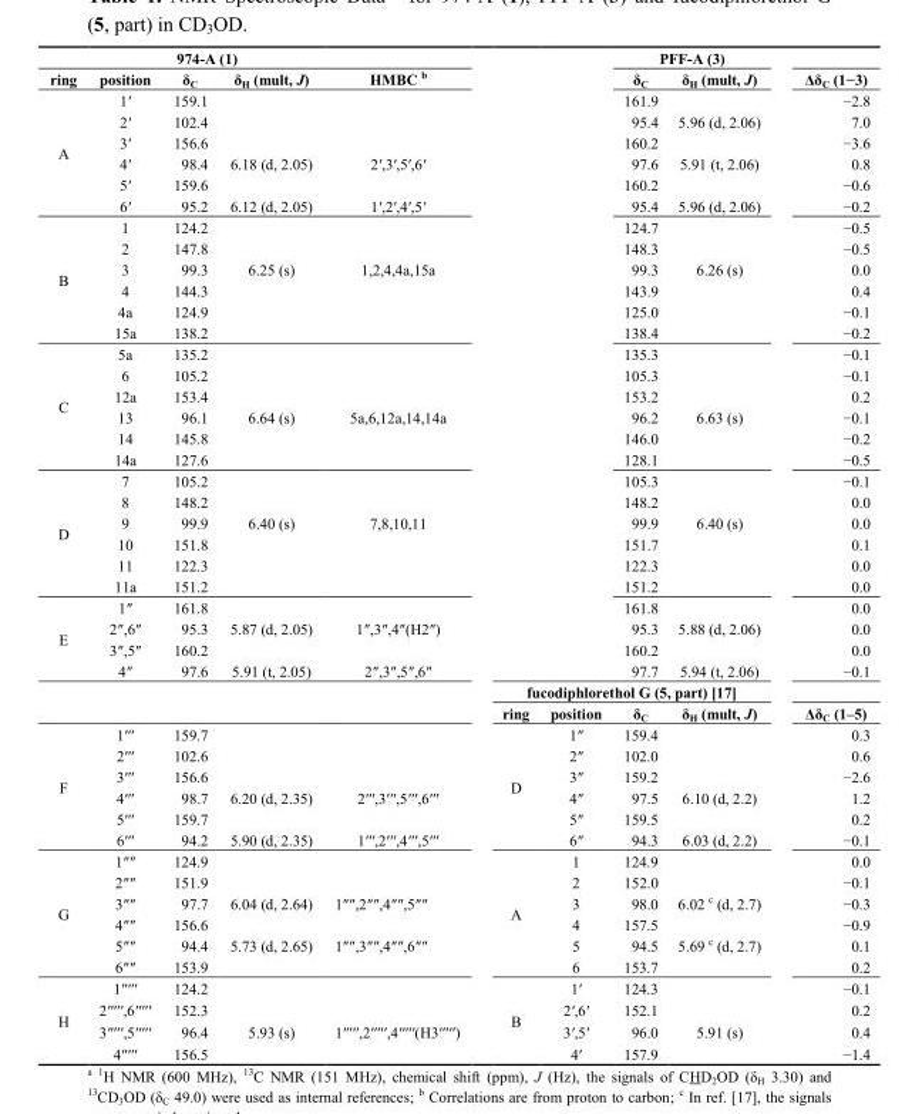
<table><thead><tr><td rowspan="2">ring</td><td colspan="3">974-A (1)</td><td rowspan="2">HMBC <sup>b</sup></td><td rowspan="2"></td><td rowspan="2"></td><td colspan="2">PFF-A (3)</td><td rowspan="2">Δδ<sub>C</sub> (1−3)</td></tr><tr><td>position</td><td>δ<sub>C</sub></td><td>δH (mult, J)</td><td>δC</td><td>δH (mult, J)</td></tr></thead><tbody><tr><td rowspan="6">A</td><td>1′</td><td>159.1</td><td></td><td></td><td></td><td></td><td>161.9</td><td></td><td>−2.8</td></tr><tr><td>2′</td><td>102.4</td><td></td><td></td><td></td><td></td><td>95.4</td><td>5.96 (d, 2.06)</td><td>7.0</td></tr><tr><td>3′</td><td>156.6</td><td></td><td></td><td></td><td></td><td>160.2</td><td></td><td>−3.6</td></tr><tr><td>4′</td><td>98.4</td><td>6.18 (d, 2.05)</td><td>2′,3′,5′,6′</td><td></td><td></td><td>97.6</td><td>5.91 (t, 2.06)</td><td>0.8</td></tr><tr><td>5′</td><td>159.6</td><td></td><td></td><td></td><td></td><td>160.2</td><td></td><td>−0.6</td></tr><tr><td>6′</td><td>95.2</td><td>6.12 (d, 2.05)</td><td>1′,2′,4′,5′</td><td></td><td></td><td>95.4</td><td>5.96 (d, 2.06)</td><td>−0.2</td></tr><tr><td rowspan="6">B</td><td>1</td><td>124.2</td><td></td><td></td><td></td><td></td><td>124.7</td><td></td><td>−0.5</td></tr><tr><td>2</td><td>147.8</td><td></td><td></td><td></td><td></td><td>148.3</td><td></td><td>−0.5</td></tr><tr><td>3</td><td>99.3</td><td>6.25 (s)</td><td>1,2,4,4a,15a</td><td></td><td></td><td>99.3</td><td>6.26 (s)</td><td>0.0</td></tr><tr><td>4</td><td>144.3</td><td></td><td></td><td></td><td></td><td>143.9</td><td></td><td>0.4</td></tr><tr><td>4a</td><td>124.9</td><td></td><td></td><td></td><td></td><td>125.0</td><td></td><td>−0.1</td></tr><tr><td>15a</td><td>138.2</td><td></td><td></td><td></td><td></td><td>138.4</td><td></td><td>−0.2</td></tr><tr><td rowspan="6">C</td><td>5a</td><td>135.2</td><td></td><td></td><td></td><td></td><td>135.3</td><td></td><td>−0.1</td></tr><tr><td>6</td><td>105.2</td><td></td><td></td><td></td><td></td><td>105.3</td><td></td><td>−0.1</td></tr><tr><td>12a</td><td>153.4</td><td></td><td></td><td></td><td></td><td>153.2</td><td></td><td>0.2</td></tr><tr><td>13</td><td>96.1</td><td>6.64 (s)</td><td>5a,6,12a,14,14a</td><td></td><td></td><td>96.2</td><td>6.63 (s)</td><td>−0.1</td></tr><tr><td>14</td><td>145.8</td><td></td><td></td><td></td><td></td><td>146.0</td><td></td><td>−0.2</td></tr><tr><td>14a</td><td>127.6</td><td></td><td></td><td></td><td></td><td>128.1</td><td></td><td>−0.5</td></tr><tr><td rowspan="6">D</td><td>7</td><td>105.2</td><td></td><td></td><td></td><td></td><td>105.3</td><td></td><td>−0.1</td></tr><tr><td>8</td><td>148.2</td><td></td><td></td><td></td><td></td><td>148.2</td><td></td><td>0.0</td></tr><tr><td>9</td><td>99.9</td><td>6.40 (s)</td><td>7,8,10,11</td><td></td><td></td><td>99.9</td><td>6.40 (s)</td><td>0.0</td></tr><tr><td>10</td><td>151.8</td><td></td><td></td><td></td><td></td><td>151.7</td><td></td><td>0.1</td></tr><tr><td>11</td><td>122.3</td><td></td><td></td><td></td><td></td><td>122.3</td><td></td><td>0.0</td></tr><tr><td>11a</td><td>151.2</td><td></td><td></td><td></td><td></td><td>151.2</td><td></td><td>0.0</td></tr><tr><td rowspan="4">E</td><td>1″</td><td>161.8</td><td></td><td></td><td></td><td></td><td>161.8</td><td></td><td>0.0</td></tr><tr><td>2″,6″</td><td>95.3</td><td>5.87 (d, 2.05)</td><td>1″,3″,4″(H2″)</td><td></td><td></td><td>95.3</td><td>5.88 (d, 2.06)</td><td>0.0</td></tr><tr><td>3″,5″</td><td>160.2</td><td></td><td></td><td></td><td></td><td>160.2</td><td></td><td>0.0</td></tr><tr><td>4″</td><td>97.6</td><td>5.91 (t, 2.05)</td><td>2″,3″,5″,6″</td><td></td><td></td><td>97.7</td><td>5.94 (t, 2.06)</td><td>−0.1</td></tr><tr><td rowspan="2" colspan="5"></td><td colspan="4">fucodiphlorethol G (5, part) [17]</td><td></td></tr><tr><td>ring</td><td>position</td><td>δ<sub>C</sub></td><td>δ<sub>H</sub> (mult, J)</td><td>Δδ<sub>C</sub> (1–5)</td></tr><tr><td rowspan="6">F</td><td>1′′′</td><td>159.7</td><td></td><td></td><td rowspan="6">D</td><td>1″</td><td>159.4</td><td></td><td>0.3</td></tr><tr><td>2′′′</td><td>102.6</td><td></td><td></td><td>2″</td><td>102.0</td><td></td><td>0.6</td></tr><tr><td>3′′′</td><td>156.6</td><td></td><td></td><td>3″</td><td>159.2</td><td></td><td>−2.6</td></tr><tr><td>4′′′</td><td>98.7</td><td>6.20 (d, 2.35)</td><td>2′′′,3′′′,5′′′,6′′′</td><td>4″</td><td>97.5</td><td>6.10 (d, 2.2)</td><td>1.2</td></tr><tr><td>5′′′</td><td>159.7</td><td></td><td></td><td>5″</td><td>159.5</td><td></td><td>0.2</td></tr><tr><td>6′′′</td><td>94.2</td><td>5.90 (d, 2.35)</td><td>1′′′,2′′′,4′′′,5′′′</td><td>6″</td><td>94.3</td><td>6.03 (d, 2.2)</td><td>−0.1</td></tr><tr><td rowspan="6">G</td><td>1″″</td><td>124.9</td><td></td><td></td><td rowspan="6">A</td><td>1</td><td>124.9</td><td></td><td>0.0</td></tr><tr><td>2″″</td><td>151.9</td><td></td><td></td><td>2</td><td>152.0</td><td></td><td>−0.1</td></tr><tr><td>3″″</td><td>97.7</td><td>6.04 (d, 2.64)</td><td>1″″,2″″,4″″,5″″</td><td>3</td><td>98.0</td><td>6.02 <sup>c</sup> (d, 2.7)</td><td>−0.3</td></tr><tr><td>4″″</td><td>156.6</td><td></td><td></td><td>4</td><td>157.5</td><td></td><td>−0.9</td></tr><tr><td>5″″</td><td>94.4</td><td>5.73 (d, 2.65)</td><td>1″″,3″″,4″″,6″″</td><td>5</td><td>94.5</td><td>5.69 <sup>c</sup> (d, 2.7)</td><td>0.1</td></tr><tr><td>6″″</td><td>153.9</td><td></td><td></td><td>6</td><td>153.7</td><td></td><td>0.2</td></tr><tr><td rowspan="4">H</td><td>1′′′′′</td><td>124.2</td><td></td><td></td><td rowspan="4">B</td><td>1′</td><td>124.3</td><td></td><td>−0.1</td></tr><tr><td>2′′′′′,6′′′′′</td><td>152.3</td><td></td><td></td><td>2′,6′</td><td>152.1</td><td></td><td>0.2</td></tr><tr><td>3′′′′′,5′′′′′</td><td>96.4</td><td>5.93 (s)</td><td>1′′′′′,2′′′′′,4′′′′′(H3′′′′′)</td><td>3′,5′</td><td>96.0</td><td>5.91 (s)</td><td>0.4</td></tr><tr><td>4′′′′′</td><td>156.5</td><td></td><td></td><td>4′</td><td>157.9</td><td></td><td>−1.4</td></tr></tbody></table>